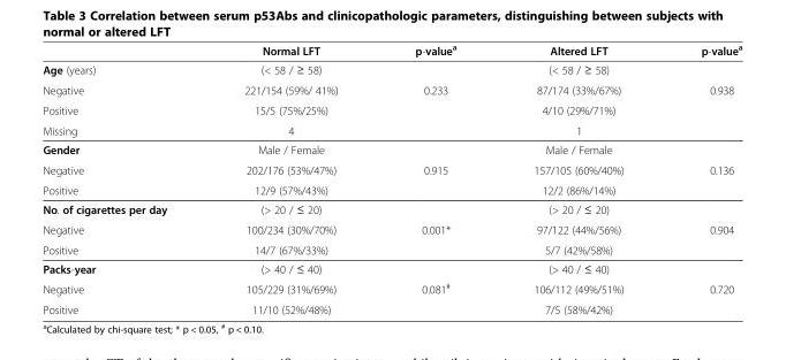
<table><thead><tr><td></td><td>Normal LFT</td><td>p-value<sup>a</sup></td><td>Altered LFT</td><td>p-value<sup>a</sup></td></tr></thead><tbody><tr><td>Age (years)</td><td>(&lt; 58 / ≥ 58)</td><td></td><td>(&lt; 58 / ≥ 58)</td><td></td></tr><tr><td>Negative</td><td>221/154 (59%/ 41%)</td><td>0.233</td><td>87/174 (33%/67%)</td><td>0.938</td></tr><tr><td>Positive</td><td>15/5 (75%/25%)</td><td></td><td>4/10 (29%/71%)</td><td></td></tr><tr><td>Missing</td><td>4</td><td></td><td>1</td><td></td></tr><tr><td>Gender</td><td>Male / Female</td><td></td><td>Male / Female</td><td></td></tr><tr><td>Negative</td><td>202/176 (53%/47%)</td><td>0.915</td><td>157/105 (60%/40%)</td><td>0.136</td></tr><tr><td>Positive</td><td>12/9 (57%/43%)</td><td></td><td>12/2 (86%/14%)</td><td></td></tr><tr><td>No. of cigarettes per day</td><td>(&gt; 20 / ≤ 20)</td><td></td><td>(&gt; 20 / ≤ 20)</td><td></td></tr><tr><td>Negative</td><td>100/234 (30%/70%)</td><td>0.001*</td><td>97/122 (44%/56%)</td><td>0.904</td></tr><tr><td>Positive</td><td>14/7 (67%/33%)</td><td></td><td>5/7 (42%/58%)</td><td></td></tr><tr><td>Packs-year</td><td>(&gt; 40 / ≤ 40)</td><td></td><td>(&gt; 40 / ≤ 40)</td><td></td></tr><tr><td>Negative</td><td>105/229 (31%/69%)</td><td>0.081<sup>#</sup></td><td>106/112 (49%/51%)</td><td>0.720</td></tr><tr><td>Positive</td><td>11/10 (52%/48%)</td><td></td><td>7/5 (58%/42%)</td><td></td></tr></tbody></table>